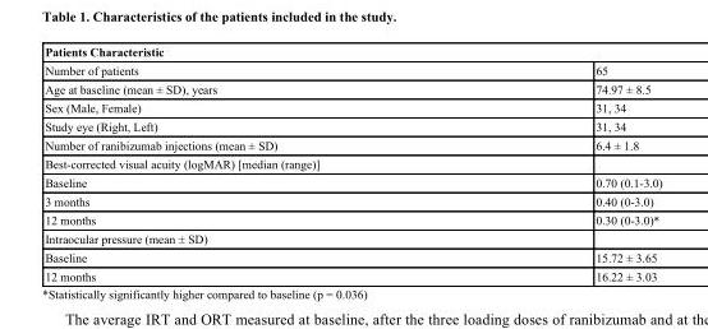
<table><thead><tr><td colspan="2">Patients Characteristic</td></tr><tr><td>Number of patients</td><td>65</td></tr></thead><tbody><tr><td>Age at baseline (mean ± SD), years</td><td>74.97 ± 8.5</td></tr><tr><td>Sex (Male, Female)</td><td>31, 34</td></tr><tr><td>Study eye (Right, Left)</td><td>31, 34</td></tr><tr><td>Number of ranibizumab injections (mean ± SD)</td><td>6.4 ± 1.8</td></tr><tr><td colspan="2">Best-corrected visual acuity (logMAR) [median (range)]</td></tr><tr><td>Baseline</td><td>0.70 (0.1-3.0)</td></tr><tr><td>3 months</td><td>0.40 (0-3.0)</td></tr><tr><td>12 months</td><td>0.30 (0-3.0)*</td></tr><tr><td colspan="2">Intraocular pressure (mean ± SD)</td></tr><tr><td>Baseline</td><td>15.72 ± 3.65</td></tr><tr><td>12 months</td><td>16.22 ± 3.03</td></tr></tbody></table>